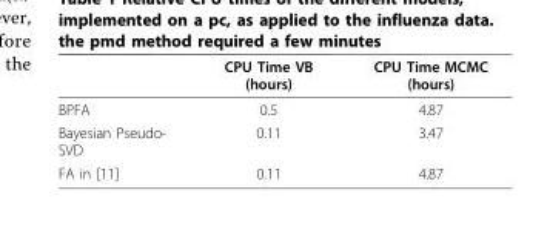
<table><thead><tr><td></td><td>CPU Time VB (hours)</td><td>CPU Time MCMC (hours)</td></tr></thead><tbody><tr><td>BPFA</td><td>0.5</td><td>4.87</td></tr><tr><td>Bayesian Pseudo- SVD</td><td>0.11</td><td>3.47</td></tr><tr><td>FA in [11]</td><td>0.11</td><td>4.87</td></tr></tbody></table>